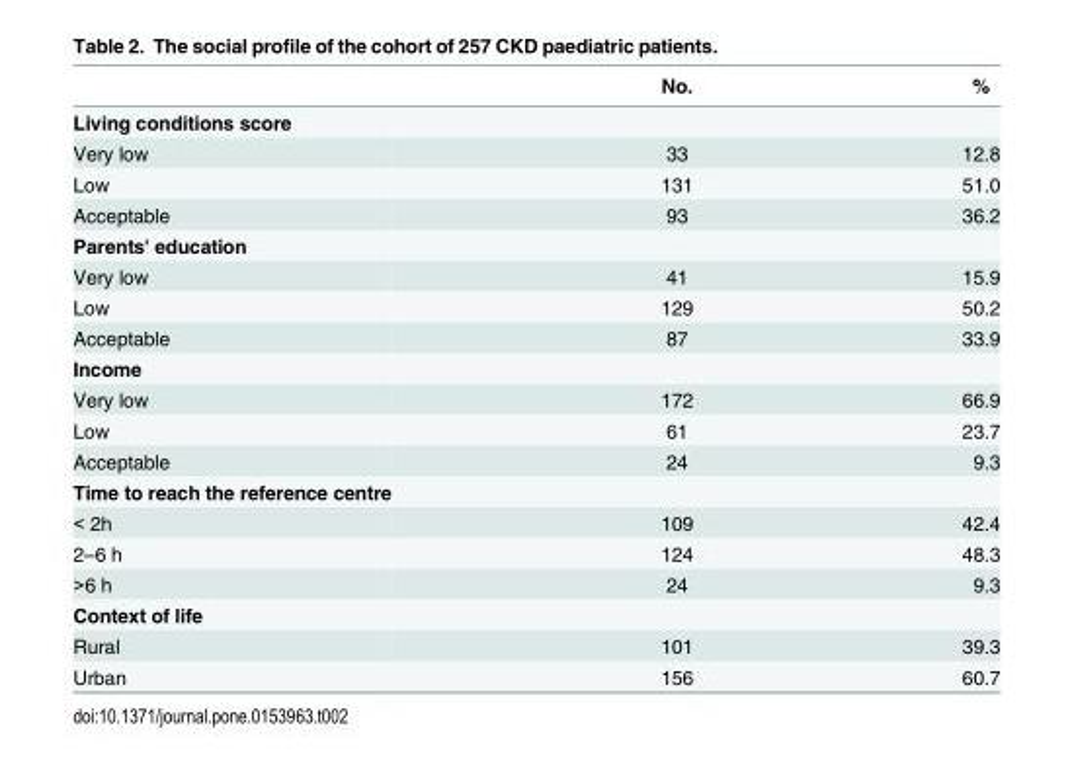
<table><thead><tr><td></td><td>No.</td><td>%</td></tr></thead><tbody><tr><td colspan="3">Living conditions score</td></tr><tr><td>Very low</td><td>33</td><td>12.8</td></tr><tr><td>Low</td><td>131</td><td>51.0</td></tr><tr><td>Acceptable</td><td>93</td><td>36.2</td></tr><tr><td colspan="3">Parents&#x27; education</td></tr><tr><td>Very low</td><td>41</td><td>15.9</td></tr><tr><td>Low</td><td>129</td><td>50.2</td></tr><tr><td>Acceptable</td><td>87</td><td>33.9</td></tr><tr><td colspan="3">Income</td></tr><tr><td>Very low</td><td>172</td><td>66.9</td></tr><tr><td>Low</td><td>61</td><td>23.7</td></tr><tr><td>Acceptable</td><td>24</td><td>9.3</td></tr><tr><td colspan="3">Time to reach the reference centre</td></tr><tr><td>&lt; 2h</td><td>109</td><td>42.4</td></tr><tr><td>2–6 h</td><td>124</td><td>48.3</td></tr><tr><td>&gt;6 h</td><td>24</td><td>9.3</td></tr><tr><td colspan="3">Context of life</td></tr><tr><td>Rural</td><td>101</td><td>39.3</td></tr><tr><td>Urban</td><td>156</td><td>60.7</td></tr></tbody></table>